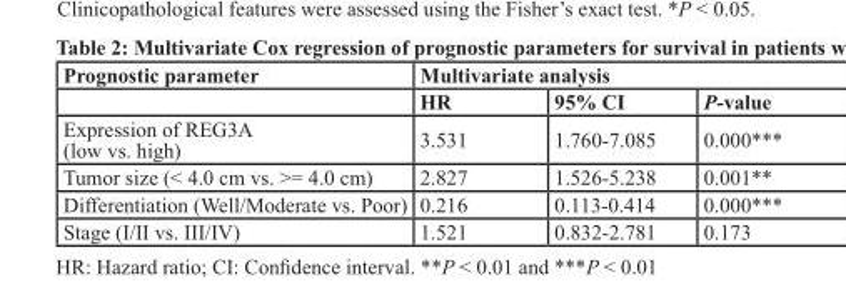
<table><thead><tr><td rowspan="2">Prognostic parameter</td><td colspan="3">Multivariate analysis</td></tr><tr><td>HR</td><td>95% CI</td><td>P-value</td></tr></thead><tbody><tr><td>Expression of REG3A (low vs. high)</td><td>3.531</td><td>1.760-7.085</td><td>0.000***</td></tr><tr><td>Tumor size (&lt; 4.0 cm vs. &gt;= 4.0 cm)</td><td>2.827</td><td>1.526-5.238</td><td>0.001**</td></tr><tr><td>Differentiation (Well/Moderate vs. Poor)</td><td>0.216</td><td>0.113-0.414</td><td>0.000***</td></tr><tr><td>Stage (I/II vs. III/IV)</td><td>1.521</td><td>0.832-2.781</td><td>0.173</td></tr></tbody></table>